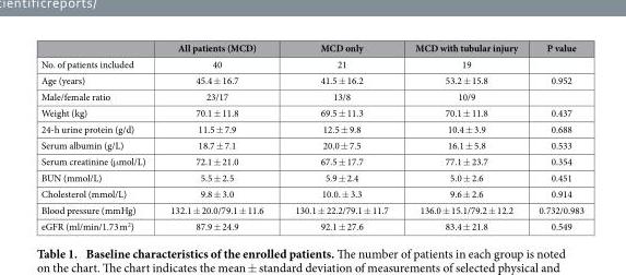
<table><thead><tr><td></td><td>All patients (MCD)</td><td>MCD only</td><td>MCD with tubular injury</td><td>P value</td></tr></thead><tbody><tr><td>No. of patients included</td><td>40</td><td>21</td><td>19</td><td></td></tr><tr><td>Age (years)</td><td>45.4 ± 16.7</td><td>41.5 ± 16.2</td><td>53.2 ± 15.8</td><td>0.952</td></tr><tr><td>Male/female ratio</td><td>23/17</td><td>13/8</td><td>10/9</td><td></td></tr><tr><td>Weight (kg)</td><td>70.1 ± 11.8</td><td>69.5 ± 11.3</td><td>70.1 ± 11.8</td><td>0.437</td></tr><tr><td>24-h urine protein (g/d)</td><td>11.5 ± 7.9</td><td>12.5 ± 9.8</td><td>10.4 ± 3.9</td><td>0.688</td></tr><tr><td>Serum albumin (g/L)</td><td>18.7 ± 7.1</td><td>20.0 ± 7.5</td><td>16.1 ± 5.8</td><td>0.533</td></tr><tr><td>Serum creatinine (μ mol/L)</td><td>72.1 ± 21.0</td><td>67.5 ± 17.7</td><td>77.1 ± 23.7</td><td>0.354</td></tr><tr><td>BUN (mmol/L)</td><td>5.5 ± 2.5</td><td>5.9 ± 2.4</td><td>5.0 ± 2.6</td><td>0.451</td></tr><tr><td>Cholesterol (mmol/L)</td><td>9.8 ± 3.0</td><td>10.0. ± 3.3</td><td>9.6 ± 2.6</td><td>0.914</td></tr><tr><td>Blood pressure (mmHg)</td><td>132.1 ± 20.0/79.1 ± 11.6</td><td>130.1 ± 22.2/79.1 ± 11.7</td><td>136.0 ± 15.1/79.2 ± 12.2</td><td>0.732/0.983</td></tr><tr><td>eGFR (ml/min/1.73 m<sup>2</sup>)</td><td>87.9 ± 24.9</td><td>92.1 ± 27.6</td><td>83.4 ± 21.8</td><td>0.549</td></tr></tbody></table>